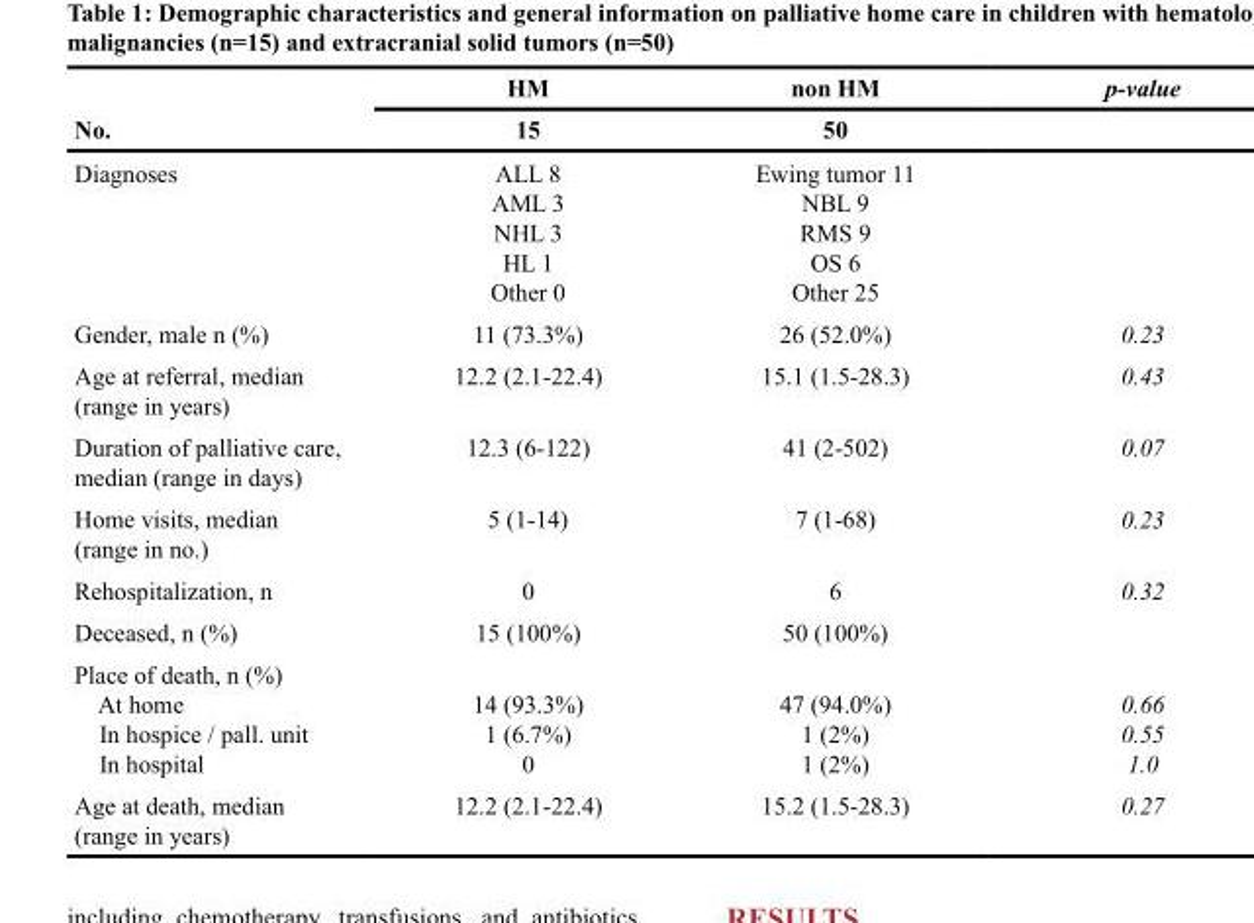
<table><thead><tr><td rowspan="2">No.</td><td rowspan="2">HM 15</td><td rowspan="2">non HM 50</td><td rowspan="2">p-value</td></tr><tr></tr></thead><tbody><tr><td rowspan="5">Diagnoses</td><td>ALL 8</td><td>Ewing tumor 11</td><td></td></tr><tr><td>AML 3</td><td>NBL 9</td><td></td></tr><tr><td>NHL 3</td><td>RMS 9</td><td></td></tr><tr><td>HL 1</td><td>OS 6</td><td></td></tr><tr><td>Other 0</td><td>Other 25</td><td></td></tr><tr><td>Gender, male n (%)</td><td>11 (73.3%)</td><td>26 (52.0%)</td><td>0.23</td></tr><tr><td>Age at referral, median (range in years)</td><td>12.2 (2.1-22.4)</td><td>15.1 (1.5-28.3)</td><td>0.43</td></tr><tr><td>Duration of palliative care, median (range in days)</td><td>12.3 (6-122)</td><td>41 (2-502)</td><td>0.07</td></tr><tr><td>Home visits, median (range in no.)</td><td>5 (1-14)</td><td>7 (1-68)</td><td>0.23</td></tr><tr><td>Rehospitalization, n</td><td>0</td><td>6</td><td>0.32</td></tr><tr><td>Deceased, n (%)</td><td>15 (100%)</td><td>50 (100%)</td><td></td></tr><tr><td colspan="4">Place of death, n (%)</td></tr><tr><td>At home</td><td>14 (93.3%)</td><td>47 (94.0%)</td><td>0.66</td></tr><tr><td>In hospice / pall. unit</td><td>1 (6.7%)</td><td>1 (2%)</td><td>0.55</td></tr><tr><td>In hospital</td><td>0</td><td>1 (2%)</td><td>1.0</td></tr><tr><td>Age at death, median (range in years)</td><td>12.2 (2.1-22.4)</td><td>15.2 (1.5-28.3)</td><td>0.27</td></tr></tbody></table>